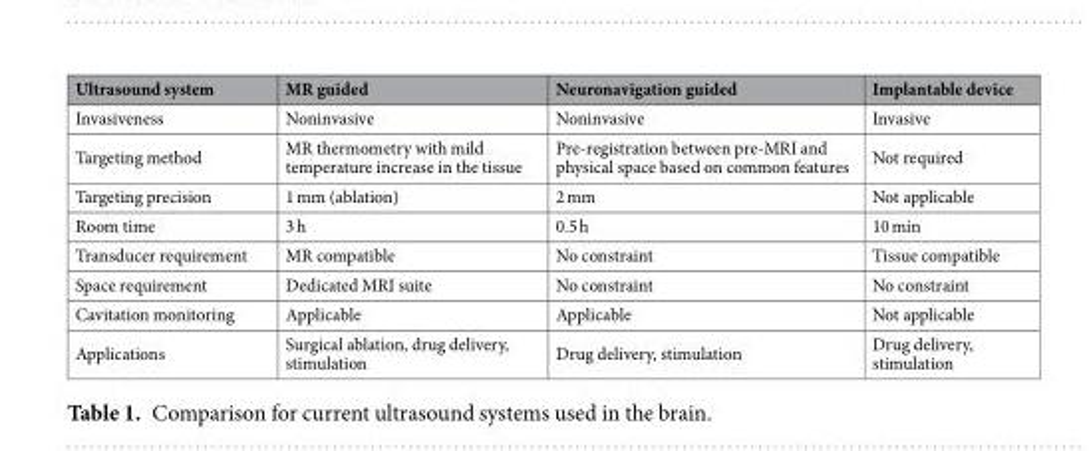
<table><thead><tr><td>Ultrasound system</td><td>MR guided</td><td>Neuronavigation guided</td><td>Implantable device</td></tr></thead><tbody><tr><td>Invasiveness</td><td>Noninvasive</td><td>Noninvasive</td><td>Invasive</td></tr><tr><td>Targeting method</td><td>MR thermometry with mild temperature increase in the tissue</td><td>Pre-registration between pre-MRI and physical space based on common features</td><td>Not required</td></tr><tr><td>Targeting precision</td><td>1 mm (ablation)</td><td>2 mm</td><td>Not applicable</td></tr><tr><td>Room time</td><td>3 h</td><td>0.5 h</td><td>10 min</td></tr><tr><td>Transducer requirement</td><td>MR compatible</td><td>No constraint</td><td>Tissue compatible</td></tr><tr><td>Space requirement</td><td>Dedicated MRI suite</td><td>No constraint</td><td>No constraint</td></tr><tr><td>Cavitation monitoring</td><td>Applicable</td><td>Applicable</td><td>Not applicable</td></tr><tr><td>Applications</td><td>Surgical ablation, drug delivery, stimulation</td><td>Drug delivery, stimulation</td><td>Drug delivery, stimulation</td></tr></tbody></table>